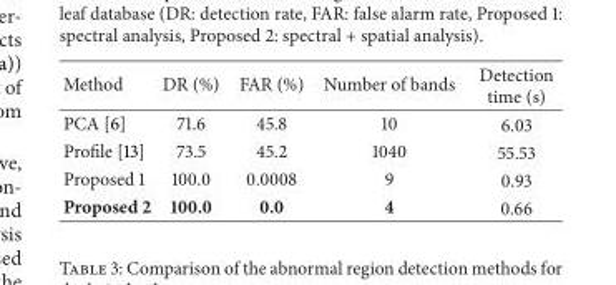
<table><thead><tr><td>Method</td><td>DR (%)</td><td>FAR (%)</td><td>Number of bands</td><td>Detection time (s)</td></tr></thead><tbody><tr><td>PCA [6]</td><td>71.6</td><td>45.8</td><td>10</td><td>6.03</td></tr><tr><td>Profile [13]</td><td>73.5</td><td>45.2</td><td>1040</td><td>55.53</td></tr><tr><td>Proposed 1</td><td>100.0</td><td>0.0008</td><td>9</td><td>0.93</td></tr><tr><td>Proposed 2</td><td>100.0</td><td>0.0</td><td>4</td><td>0.66</td></tr></tbody></table>